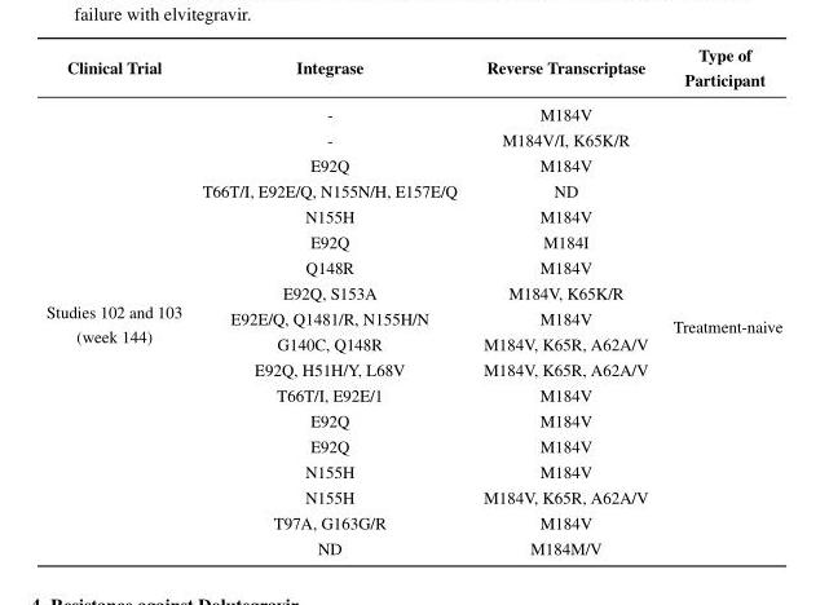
<table><thead><tr><td>Clinical Trial</td><td>Integrase</td><td>Reverse Transcriptase</td><td>Type of Participant</td></tr></thead><tbody><tr><td rowspan="18">Studies 102 and 103 (week 144)</td><td>-</td><td>M184V</td><td rowspan="18">Treatment-naive</td></tr><tr><td>-</td><td>M184V/I, K65K/R</td></tr><tr><td>E92Q</td><td>M184V</td></tr><tr><td>T66T/I, E92E/Q, N155N/H, E157E/Q</td><td>ND</td></tr><tr><td>N155H</td><td>M184V</td></tr><tr><td>E92Q</td><td>M184I</td></tr><tr><td>Q148R</td><td>M184V</td></tr><tr><td>E92Q, S153A</td><td>M184V, K65K/R</td></tr><tr><td>E92E/Q, Q1481/R, N155H/N</td><td>M184V</td></tr><tr><td>G140C, Q148R</td><td>M184V, K65R, A62A/V</td></tr><tr><td>E92Q, H51H/Y, L68V</td><td>M184V, K65R, A62A/V</td></tr><tr><td>T66T/I, E92E/1</td><td>M184V</td></tr><tr><td>E92Q</td><td>M184V</td></tr><tr><td>E92Q</td><td>M184V</td></tr><tr><td>N155H</td><td>M184V</td></tr><tr><td>N155H</td><td>M184V, K65R, A62A/V</td></tr><tr><td>T97A, G163G/R</td><td>M184V</td></tr><tr><td>ND</td><td>M184M/V</td></tr></tbody></table>